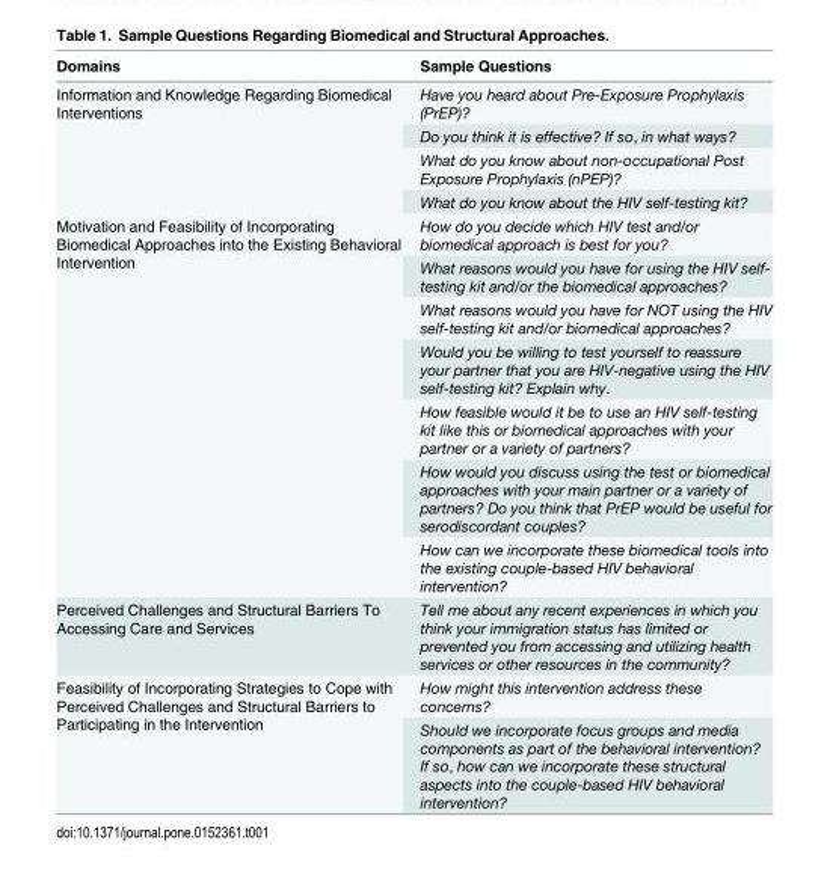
<table><thead><tr><td>Domains</td><td>Sample Questions</td></tr></thead><tbody><tr><td rowspan="4">Information and Knowledge Regarding Biomedical Interventions</td><td>Have you heard about Pre-Exposure Prophylaxis (PrEP)?</td></tr><tr><td>Do you think it is effective? If so, in what ways?</td></tr><tr><td>What do you know about non-occupational Post Exposure Prophylaxis (nPEP)?</td></tr><tr><td>What do you know about the HIV self-testing kit?</td></tr><tr><td rowspan="7">Motivation and Feasibility of Incorporating Biomedical Approaches into the Existing Behavioral Intervention</td><td>How do you decide which HIV test and/or biomedical approach is best for you?</td></tr><tr><td>What reasons would you have for using the HIV self- testing kit and/or the biomedical approaches?</td></tr><tr><td>What reasons would you have for NOT using the HIV self-testing kit and/or biomedical approaches?</td></tr><tr><td>Would you be willing to test yourself to reassure your partner that you are HIV-negative using the HIV self-testing kit? Explain why.</td></tr><tr><td>How feasible would it be to use an HIV self-testing kit like this or biomedical approaches with your partner or a variety of partners?</td></tr><tr><td>How would you discuss using the test or biomedical approaches with your main partner or a variety of partners? Do you think that PrEP would be useful for serodiscordant couples?</td></tr><tr><td>How can we incorporate these biomedical tools into the existing couple-based HIV behavioral intervention?</td></tr><tr><td>Perceived Challenges and Structural Barriers To Accessing Care and Services</td><td>Tell me about any recent experiences in which you think your immigration status has limited or prevented you from accessing and utilizing health services or other resources in the community?</td></tr><tr><td rowspan="2">Feasibility of Incorporating Strategies to Cope with Perceived Challenges and Structural Barriers to Participating in the Intervention</td><td>How might this intervention address these concerns?</td></tr><tr><td>Should we incorporate focus groups and media components as part of the behavioral intervention? If so, how can we incorporate these structural aspects into the couple-based HIV behavioral intervention?</td></tr></tbody></table>